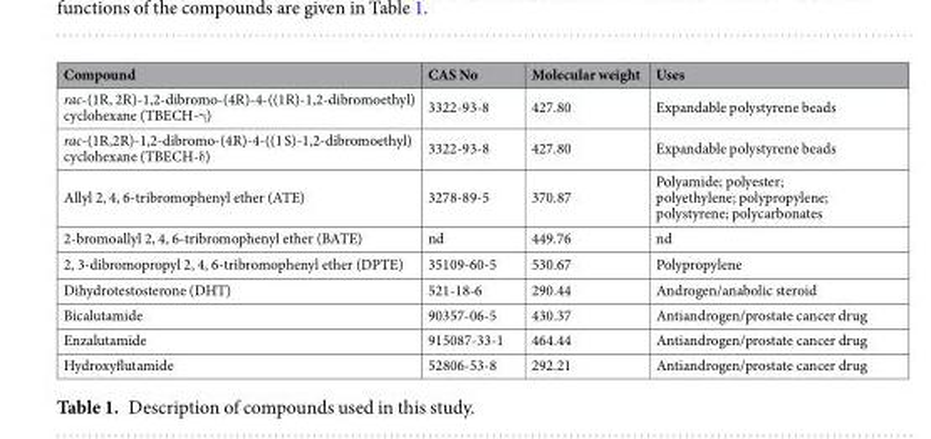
<table><thead><tr><td>Compound</td><td>CAS No</td><td>Molecular weight</td><td>Uses</td></tr></thead><tbody><tr><td>rac-(1R, 2R)-1,2-dibromo-(4R)-4-((1R)-1,2-dibromoethyl) cyclohexane (TBECH-γ)</td><td>3322-93-8</td><td>427.80</td><td>Expandable polystyrene beads</td></tr><tr><td>rac-(1R,2R)-1,2-dibromo-(4R)-4-((1 S)-1,2-dibromoethyl) cyclohexane (TBECH-δ)</td><td>3322-93-8</td><td>427.80</td><td>Expandable polystyrene beads</td></tr><tr><td>Allyl 2, 4, 6-tribromophenyl ether (ATE)</td><td>3278-89-5</td><td>370.87</td><td>Polyamide; polyester; polyethylene; polypropylene; polystyrene; polycarbonates</td></tr><tr><td>2-bromoallyl 2, 4, 6-tribromophenyl ether (BATE)</td><td>nd</td><td>449.76</td><td>nd</td></tr><tr><td>2, 3-dibromopropyl 2, 4, 6-tribromophenyl ether (DPTE)</td><td>35109-60-5</td><td>530.67</td><td>Polypropylene</td></tr><tr><td>Dihydrotestosterone (DHT)</td><td>521-18-6</td><td>290.44</td><td>Androgen/anabolic steroid</td></tr><tr><td>Bicalutamide</td><td>90357-06-5</td><td>430.37</td><td>Antiandrogen/prostate cancer drug</td></tr><tr><td>Enzalutamide</td><td>915087-33-1</td><td>464.44</td><td>Antiandrogen/prostate cancer drug</td></tr><tr><td>Hydroxyflutamide</td><td>52806-53-8</td><td>292.21</td><td>Antiandrogen/prostate cancer drug</td></tr></tbody></table>